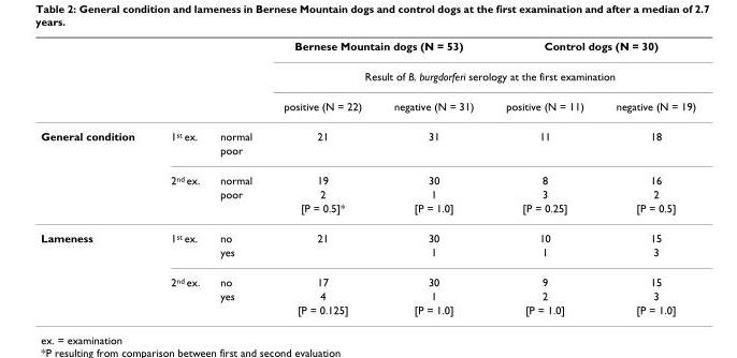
<table><thead><tr><td rowspan="3"></td><td rowspan="3"></td><td rowspan="3"></td><td colspan="2">Bernese Mountain dogs (N = 53)</td><td colspan="2">Control dogs (N = 30)</td></tr><tr><td colspan="4">Result of B. burgdorferi serology at the first examination</td></tr><tr><td>positive (N = 22)</td><td>negative (N = 31)</td><td>positive (N = 11)</td><td>negative (N = 19)</td></tr></thead><tbody><tr><td rowspan="5">General condition</td><td>1<sup>st</sup> ex.</td><td>normal</td><td>21</td><td>31</td><td>11</td><td>18</td></tr><tr><td></td><td>poor</td><td></td><td></td><td></td><td></td></tr><tr><td>2<sup>nd</sup> ex.</td><td>normal</td><td>19</td><td>30</td><td>8</td><td>16</td></tr><tr><td></td><td>poor</td><td>2</td><td>1</td><td>3</td><td>2</td></tr><tr><td></td><td></td><td>[P = 0.5]*</td><td>[P = 1.0]</td><td>[P = 0.25]</td><td>[P = 0.5]</td></tr><tr><td rowspan="5">Lameness</td><td>1<sup>st</sup> ex.</td><td>no</td><td>21</td><td>30</td><td>10</td><td>15</td></tr><tr><td></td><td>yes</td><td></td><td>1</td><td>1</td><td>3</td></tr><tr><td>2<sup>nd</sup> ex.</td><td>no</td><td>17</td><td>30</td><td>9</td><td>15</td></tr><tr><td></td><td>yes</td><td>4</td><td>1</td><td>2</td><td>3</td></tr><tr><td></td><td></td><td>[P = 0.125]</td><td>[P = 1.0]</td><td>[P = 1.0]</td><td>[P = 1.0]</td></tr></tbody></table>